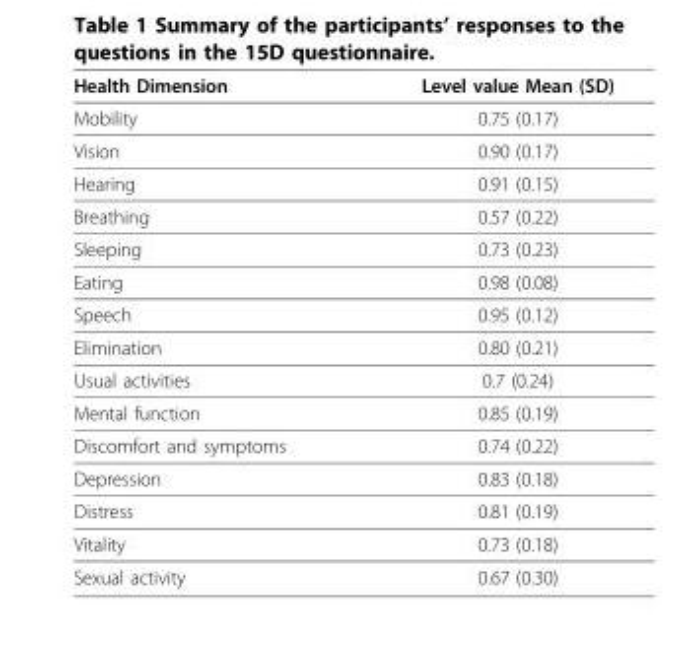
<table><thead><tr><td>Health Dimension</td><td>Level value Mean (SD)</td></tr></thead><tbody><tr><td>Mobility</td><td>0.75 (0.17)</td></tr><tr><td>Vision</td><td>0.90 (0.17)</td></tr><tr><td>Hearing</td><td>0.91 (0.15)</td></tr><tr><td>Breathing</td><td>0.57 (0.22)</td></tr><tr><td>Sleeping</td><td>0.73 (0.23)</td></tr><tr><td>Eating</td><td>0.98 (0.08)</td></tr><tr><td>Speech</td><td>0.95 (0.12)</td></tr><tr><td>Elimination</td><td>0.80 (0.21)</td></tr><tr><td>Usual activities</td><td>0.7 (0.24)</td></tr><tr><td>Mental function</td><td>0.85 (0.19)</td></tr><tr><td>Discomfort and symptoms</td><td>0.74 (0.22)</td></tr><tr><td>Depression</td><td>0.83 (0.18)</td></tr><tr><td>Distress</td><td>0.81 (0.19)</td></tr><tr><td>Vitality</td><td>0.73 (0.18)</td></tr><tr><td>Sexual activity</td><td>0.67 (0.30)</td></tr></tbody></table>